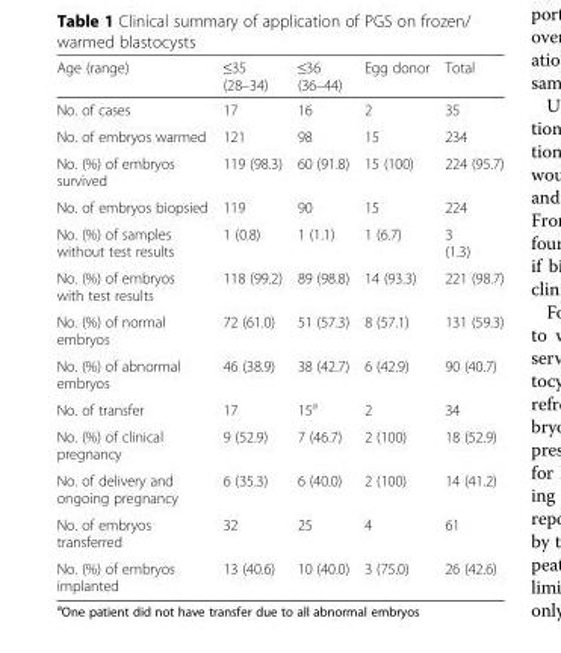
<table><thead><tr><td>Age (range)</td><td>≤35 (28–34)</td><td>≤36 (36–44)</td><td>Egg donor</td><td>Total</td></tr></thead><tbody><tr><td>No. of cases</td><td>17</td><td>16</td><td>2</td><td>35</td></tr><tr><td>No. of embryos warmed</td><td>121</td><td>98</td><td>15</td><td>234</td></tr><tr><td>No. (%) of embryos survived</td><td>119 (98.3)</td><td>60 (91.8)</td><td>15 (100)</td><td>224 (95.7)</td></tr><tr><td>No. of embryos biopsied</td><td>119</td><td>90</td><td>15</td><td>224</td></tr><tr><td>No. (%) of samples without test results</td><td>1 (0.8)</td><td>1 (1.1)</td><td>1 (6.7)</td><td>3 (1.3)</td></tr><tr><td>No. (%) of embryos with test results</td><td>118 (99.2)</td><td>89 (98.8)</td><td>14 (93.3)</td><td>221 (98.7)</td></tr><tr><td>No. (%) of normal embryos</td><td>72 (61.0)</td><td>51 (57.3)</td><td>8 (57.1)</td><td>131 (59.3)</td></tr><tr><td>No. (%) of abnormal embryos</td><td>46 (38.9)</td><td>38 (42.7)</td><td>6 (42.9)</td><td>90 (40.7)</td></tr><tr><td>No. of transfer</td><td>17</td><td>15<sup>a</sup></td><td>2</td><td>34</td></tr><tr><td>No. (%) of clinical pregnancy</td><td>9 (52.9)</td><td>7 (46.7)</td><td>2 (100)</td><td>18 (52.9)</td></tr><tr><td>No. of delivery and ongoing pregnancy</td><td>6 (35.3)</td><td>6 (40.0)</td><td>2 (100)</td><td>14 (41.2)</td></tr><tr><td>No. of embryos transferred</td><td>32</td><td>25</td><td>4</td><td>61</td></tr><tr><td>No. (%) of embryos implanted</td><td>13 (40.6)</td><td>10 (40.0)</td><td>3 (75.0)</td><td>26 (42.6)</td></tr></tbody></table>